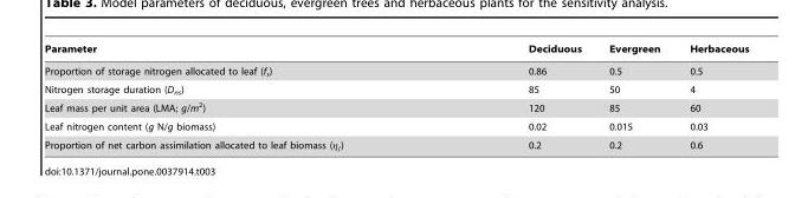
<table><thead><tr><td>Parameter</td><td>Deciduous</td><td>Evergreen</td><td>Herbaceous</td></tr></thead><tbody><tr><td>Proportion of storage nitrogen allocated to leaf (f<sub>s</sub>)</td><td>0.86</td><td>0.5</td><td>0.5</td></tr><tr><td>Nitrogen storage duration (D<sub>ns</sub>)</td><td>85</td><td>50</td><td>4</td></tr><tr><td>Leaf mass per unit area (LMA; g/m<sup>2</sup>)</td><td>120</td><td>85</td><td>60</td></tr><tr><td>Leaf nitrogen content (g N/g biomass)</td><td>0.02</td><td>0.015</td><td>0.03</td></tr><tr><td>Proportion of net carbon assimilation allocated to leaf biomass (gl)</td><td>0.2</td><td>0.2</td><td>0.6</td></tr></tbody></table>